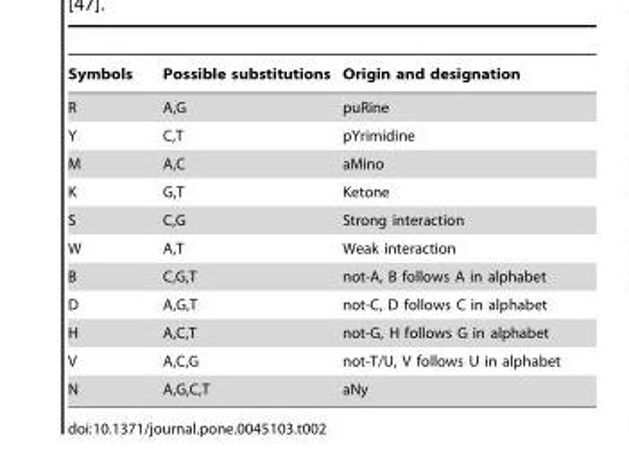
<table><thead><tr><td>Symbols</td><td>Possible substitutions</td><td>Origin and designation</td></tr></thead><tbody><tr><td>R</td><td>A,G</td><td>puRine</td></tr><tr><td>Y</td><td>C,T</td><td>pYrimidine</td></tr><tr><td>M</td><td>A,C</td><td>aMino</td></tr><tr><td>K</td><td>G,T</td><td>Ketone</td></tr><tr><td>S</td><td>C,G</td><td>Strong interaction</td></tr><tr><td>W</td><td>A,T</td><td>Weak interaction</td></tr><tr><td>B</td><td>C,G,T</td><td>not-A, B follows A in alphabet</td></tr><tr><td>D</td><td>A,G,T</td><td>not-C, D follows C in alphabet</td></tr><tr><td>H</td><td>A,C,T</td><td>not-G, H follows G in alphabet</td></tr><tr><td>V</td><td>A,C,G</td><td>not-T/U, V follows U in alphabet</td></tr><tr><td>N</td><td>A,G,C,T</td><td>aNy</td></tr></tbody></table>